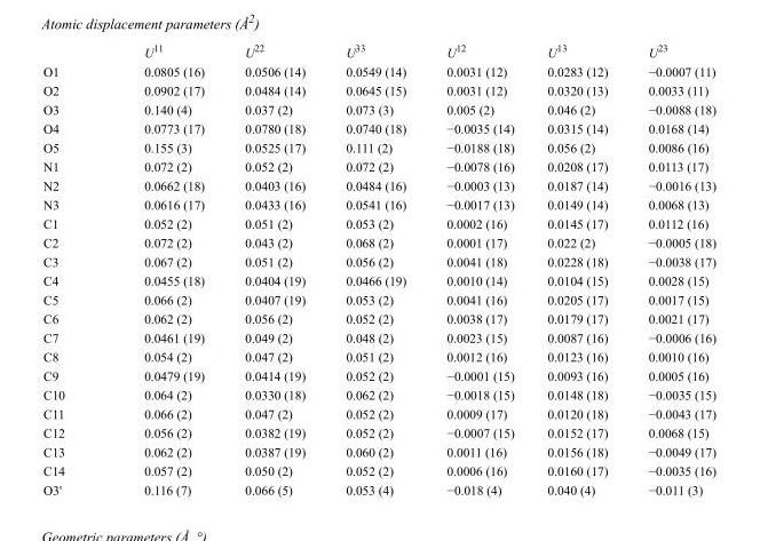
<table><thead><tr><td></td><td>U<sup>11</sup></td><td>U<sup>22</sup></td><td>U<sup>33</sup></td><td>U<sup>12</sup></td><td>U<sup>13</sup></td><td>U<sup>23</sup></td></tr></thead><tbody><tr><td>O1</td><td>0.0805 (16)</td><td>0.0506 (14)</td><td>0.0549 (14)</td><td>0.0031 (12)</td><td>0.0283 (12)</td><td>−0.0007 (11)</td></tr><tr><td>O2</td><td>0.0902 (17)</td><td>0.0484 (14)</td><td>0.0645 (15)</td><td>0.0031 (12)</td><td>0.0320 (13)</td><td>0.0033 (11)</td></tr><tr><td>O3</td><td>0.140 (4)</td><td>0.037 (2)</td><td>0.073 (3)</td><td>0.005 (2)</td><td>0.046 (2)</td><td>−0.0088 (18)</td></tr><tr><td>O4</td><td>0.0773 (17)</td><td>0.0780 (18)</td><td>0.0740 (18)</td><td>−0.0035 (14)</td><td>0.0315 (14)</td><td>0.0168 (14)</td></tr><tr><td>O5</td><td>0.155 (3)</td><td>0.0525 (17)</td><td>0.111 (2)</td><td>−0.0188 (18)</td><td>0.056 (2)</td><td>0.0086 (16)</td></tr><tr><td>N1</td><td>0.072 (2)</td><td>0.052 (2)</td><td>0.072 (2)</td><td>−0.0078 (16)</td><td>0.0208 (17)</td><td>0.0113 (17)</td></tr><tr><td>N2</td><td>0.0662 (18)</td><td>0.0403 (16)</td><td>0.0484 (16)</td><td>−0.0003 (13)</td><td>0.0187 (14)</td><td>−0.0016 (13)</td></tr><tr><td>N3</td><td>0.0616 (17)</td><td>0.0433 (16)</td><td>0.0541 (16)</td><td>−0.0017 (13)</td><td>0.0149 (14)</td><td>0.0068 (13)</td></tr><tr><td>C1</td><td>0.052 (2)</td><td>0.051 (2)</td><td>0.053 (2)</td><td>0.0002 (16)</td><td>0.0145 (17)</td><td>0.0112 (16)</td></tr><tr><td>C2</td><td>0.072 (2)</td><td>0.043 (2)</td><td>0.068 (2)</td><td>0.0001 (17)</td><td>0.022 (2)</td><td>−0.0005 (18)</td></tr><tr><td>C3</td><td>0.067 (2)</td><td>0.051 (2)</td><td>0.056 (2)</td><td>0.0041 (18)</td><td>0.0228 (18)</td><td>−0.0038 (17)</td></tr><tr><td>C4</td><td>0.0455 (18)</td><td>0.0404 (19)</td><td>0.0466 (19)</td><td>0.0010 (14)</td><td>0.0104 (15)</td><td>0.0028 (15)</td></tr><tr><td>C5</td><td>0.066 (2)</td><td>0.0407 (19)</td><td>0.053 (2)</td><td>0.0041 (16)</td><td>0.0205 (17)</td><td>0.0017 (15)</td></tr><tr><td>C6</td><td>0.062 (2)</td><td>0.056 (2)</td><td>0.052 (2)</td><td>0.0038 (17)</td><td>0.0179 (17)</td><td>0.0021 (17)</td></tr><tr><td>C7</td><td>0.0461 (19)</td><td>0.049 (2)</td><td>0.048 (2)</td><td>0.0023 (15)</td><td>0.0087 (16)</td><td>−0.0006 (16)</td></tr><tr><td>C8</td><td>0.054 (2)</td><td>0.047 (2)</td><td>0.051 (2)</td><td>0.0012 (16)</td><td>0.0123 (16)</td><td>0.0010 (16)</td></tr><tr><td>C9</td><td>0.0479 (19)</td><td>0.0414 (19)</td><td>0.052 (2)</td><td>−0.0001 (15)</td><td>0.0093 (16)</td><td>0.0005 (16)</td></tr><tr><td>C10</td><td>0.064 (2)</td><td>0.0330 (18)</td><td>0.062 (2)</td><td>−0.0018 (15)</td><td>0.0148 (18)</td><td>−0.0035 (15)</td></tr><tr><td>C11</td><td>0.066 (2)</td><td>0.047 (2)</td><td>0.052 (2)</td><td>0.0009 (17)</td><td>0.0120 (18)</td><td>−0.0043 (17)</td></tr><tr><td>C12</td><td>0.056 (2)</td><td>0.0382 (19)</td><td>0.052 (2)</td><td>−0.0007 (15)</td><td>0.0152 (17)</td><td>0.0068 (15)</td></tr><tr><td>C13</td><td>0.062 (2)</td><td>0.0387 (19)</td><td>0.060 (2)</td><td>0.0011 (16)</td><td>0.0156 (18)</td><td>−0.0049 (17)</td></tr><tr><td>C14</td><td>0.057 (2)</td><td>0.050 (2)</td><td>0.052 (2)</td><td>0.0006 (16)</td><td>0.0160 (17)</td><td>−0.0035 (16)</td></tr><tr><td>O3&#x27;</td><td>0.116 (7)</td><td>0.066 (5)</td><td>0.053 (4)</td><td>−0.018 (4)</td><td>0.040 (4)</td><td>−0.011 (3)</td></tr></tbody></table>